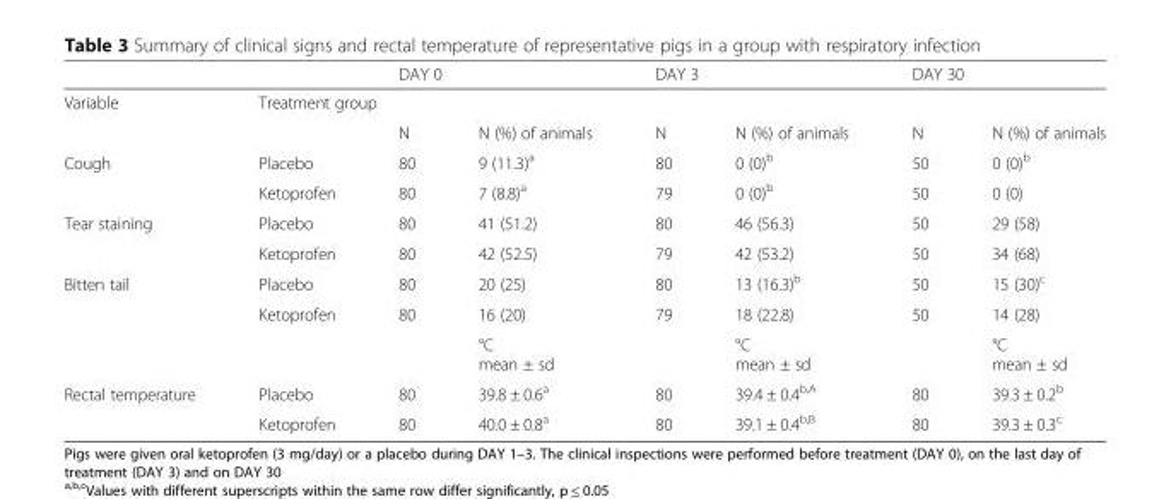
<table><thead><tr><td rowspan="3">Variable</td><td></td><td colspan="2">DAY 0</td><td colspan="2">DAY 3</td><td colspan="2">DAY 30</td></tr><tr><td colspan="7">Treatment group</td></tr><tr><td></td><td>N</td><td>N (%) of animals</td><td>N</td><td>N (%) of animals</td><td>N</td><td>N (%) of animals</td></tr></thead><tbody><tr><td rowspan="2">Cough</td><td>Placebo</td><td>80</td><td>9 (11.3)<sup>a</sup></td><td>80</td><td>0 (0)<sup>b</sup></td><td>50</td><td>0 (0)<sup>b</sup></td></tr><tr><td>Ketoprofen</td><td>80</td><td>7 (8.8)<sup>a</sup></td><td>79</td><td>0 (0)<sup>b</sup></td><td>50</td><td>0 (0)</td></tr><tr><td rowspan="2">Tear staining</td><td>Placebo</td><td>80</td><td>41 (51.2)</td><td>80</td><td>46 (56.3)</td><td>50</td><td>29 (58)</td></tr><tr><td>Ketoprofen</td><td>80</td><td>42 (52.5)</td><td>79</td><td>42 (53.2)</td><td>50</td><td>34 (68)</td></tr><tr><td rowspan="3">Bitten tail</td><td>Placebo</td><td>80</td><td>20 (25)</td><td>80</td><td>13 (16.3)<sup>b</sup></td><td>50</td><td>15 (30)<sup>c</sup></td></tr><tr><td>Ketoprofen</td><td>80</td><td>16 (20)</td><td>79</td><td>18 (22.8)</td><td>50</td><td>14 (28)</td></tr><tr><td></td><td></td><td>°C mean ± sd</td><td></td><td>°C mean ± sd</td><td></td><td>°C mean ± sd</td></tr><tr><td rowspan="2">Rectal temperature</td><td>Placebo</td><td>80</td><td>39.8 ± 0.6<sup>a</sup></td><td>80</td><td>39.4 ± 0.4<sup>b,A</sup></td><td>80</td><td>39.3 ± 0.2<sup>b</sup></td></tr><tr><td>Ketoprofen</td><td>80</td><td>40.0 ± 0.8<sup>a</sup></td><td>80</td><td>39.1 ± 0.4<sup>b,B</sup></td><td>80</td><td>39.3 ± 0.3<sup>c</sup></td></tr></tbody></table>